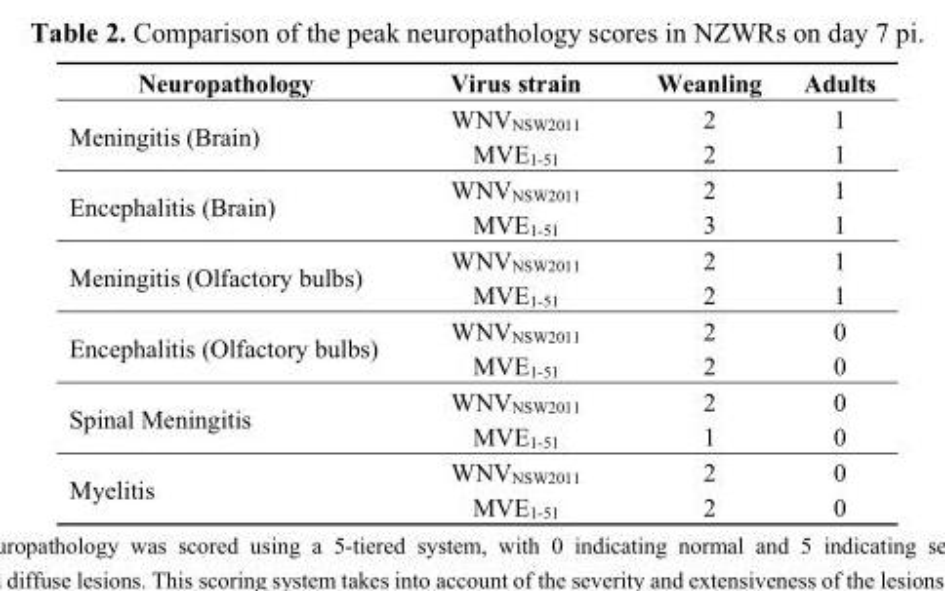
<table><thead><tr><td>Neuropathology</td><td>Virus strain</td><td>Weanling</td><td>Adults</td></tr></thead><tbody><tr><td rowspan="2">Meningitis (Brain)</td><td>WNV<sub>NSW2011</sub></td><td>2</td><td>1</td></tr><tr><td>MVE<sub>1-51</sub></td><td>2</td><td>1</td></tr><tr><td rowspan="2">Encephalitis (Brain)</td><td>WNV<sub>NSW2011</sub></td><td>2</td><td>1</td></tr><tr><td>MVE<sub>1-51</sub></td><td>3</td><td>1</td></tr><tr><td rowspan="2">Meningitis (Olfactory bulbs)</td><td>WNV<sub>NSW2011</sub></td><td>2</td><td>1</td></tr><tr><td>MVE<sub>1-51</sub></td><td>2</td><td>1</td></tr><tr><td rowspan="2">Encephalitis (Olfactory bulbs)</td><td>WNV<sub>NSW2011</sub></td><td>2</td><td>0</td></tr><tr><td>MVE<sub>1-51</sub></td><td>2</td><td>0</td></tr><tr><td rowspan="2">Spinal Meningitis</td><td>WNV<sub>NSW2011</sub></td><td>2</td><td>0</td></tr><tr><td>MVE<sub>1-51</sub></td><td>1</td><td>0</td></tr><tr><td rowspan="2">Myelitis</td><td>WNV<sub>NSW2011</sub></td><td>2</td><td>0</td></tr><tr><td>MVE<sub>1-51</sub></td><td>2</td><td>0</td></tr></tbody></table>